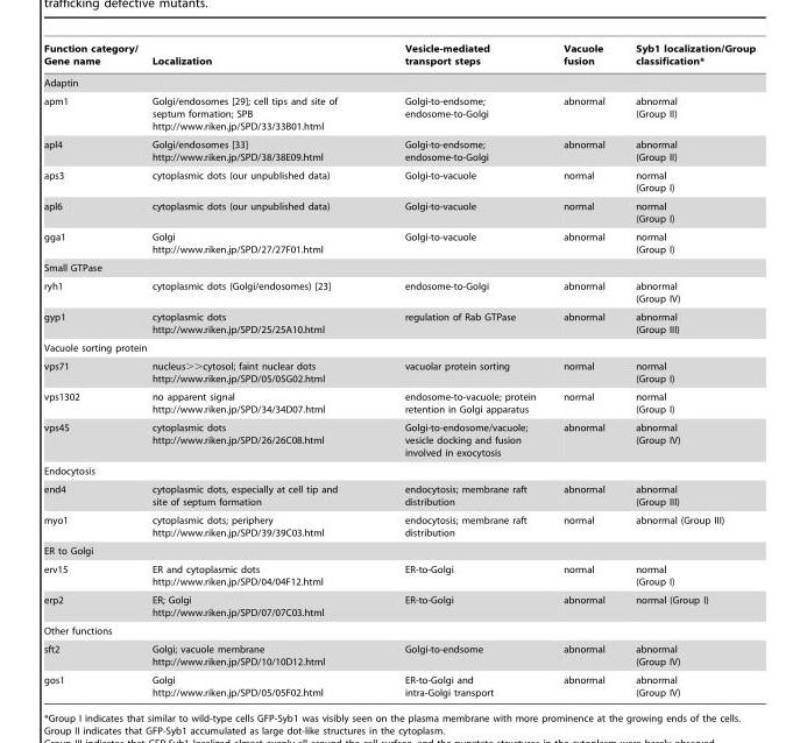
<table><thead><tr><td>Function category/ Gene name</td><td>Localization</td><td>Vesicle-mediated transport steps</td><td>Vacuole fusion</td><td>Syb1 localization/Group classification*</td></tr></thead><tbody><tr><td colspan="5">Adaptin</td></tr><tr><td>apm1</td><td>Golgi/endosomes [29]; cell tips and site of septum formation; SPB http://www.riken.jp/SPD/33/33B01.html</td><td>Golgi-to-endsome; endosome-to-Golgi</td><td>abnormal</td><td>abnormal (Group II)</td></tr><tr><td>apl4</td><td>Golgi/endosomes [33] http://www.riken.jp/SPD/38/38E09.html</td><td>Golgi-to-endsome; endosome-to-Golgi</td><td>abnormal</td><td>abnormal (Group II)</td></tr><tr><td>aps3</td><td>cytoplasmic dots (our unpublished data)</td><td>Golgi-to-vacuole</td><td>normal</td><td>normal (Group I)</td></tr><tr><td>apl6</td><td>cytoplasmic dots (our unpublished data)</td><td>Golgi-to-vacuole</td><td>normal</td><td>normal (Group I)</td></tr><tr><td>gga1</td><td>Golgi http://www.riken.jp/SPD/27/27F01.html</td><td>Golgi-to-vacuole</td><td>abnormal</td><td>normal (Group I)</td></tr><tr><td colspan="5">Small GTPase</td></tr><tr><td>ryh1</td><td>cytoplasmic dots (Golgi/endosomes) [23]</td><td>endosome-to-Golgi</td><td>abnormal</td><td>abnormal (Group IV)</td></tr><tr><td>gyp1</td><td>cytoplasmic dots http://www.riken.jp/SPD/25/25A10.html</td><td>regulation of Rab GTPase</td><td>abnormal</td><td>abnormal (Group III)</td></tr><tr><td colspan="5">Vacuole sorting protein</td></tr><tr><td>vps71</td><td>nucleus&gt;&gt;cytosol; faint nuclear dots http://www.riken.jp/SPD/05/05G02.html</td><td>vacuolar protein sorting</td><td>normal</td><td>normal (Group I)</td></tr><tr><td>vps1302</td><td>no apparent signal http://www.riken.jp/SPD/34/34D07.html</td><td>endosome-to-vacuole; protein retention in Golgi apparatus</td><td>normal</td><td>normal (Group I)</td></tr><tr><td>vps45</td><td>cytoplasmic dots http://www.riken.jp/SPD/26/26C08.html</td><td>Golgi-to-endosome/vacuole; vesicle docking and fusion involved in exocytosis</td><td>abnormal</td><td>abnormal (Group IV)</td></tr><tr><td colspan="5">Endocytosis</td></tr><tr><td>end4</td><td>cytoplasmic dots, especially at cell tip and site of septum formation</td><td>endocytosis; membrane raft distribution</td><td>abnormal</td><td>abnormal (Group III)</td></tr><tr><td>myo1</td><td>cytoplasmic dots; periphery http://www.riken.jp/SPD/39/39C03.html</td><td>endocytosis; membrane raft distribution</td><td>normal</td><td>abnormal (Group III)</td></tr><tr><td colspan="5">ER to Golgi</td></tr><tr><td>erv15</td><td>ER and cytoplasmic dots http://www.riken.jp/SPD/04/04F12.html</td><td>ER-to-Golgi</td><td>normal</td><td>normal (Group I)</td></tr><tr><td>erp2</td><td>ER; Golgi http://www.riken.jp/SPD/07/07C03.html</td><td>ER-to-Golgi</td><td>abnormal</td><td>normal (Group I)</td></tr><tr><td colspan="5">Other functions</td></tr><tr><td>sft2</td><td>Golgi; vacuole membrane http://www.riken.jp/SPD/10/10D12.html</td><td>Golgi-to-endsome</td><td>abnormal</td><td>abnormal (Group IV)</td></tr><tr><td>gos1</td><td>Golgi http://www.riken.jp/SPD/05/05F02.html</td><td>ER-to-Golgi and intra-Golgi transport</td><td>abnormal</td><td>abnormal (Group IV)</td></tr></tbody></table>